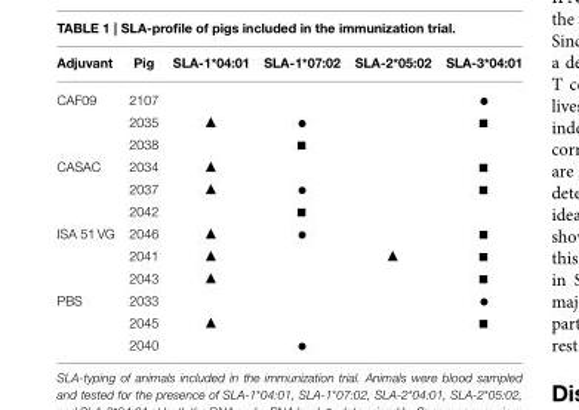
<table><thead><tr><td>Adjuvant</td><td>Pig</td><td>SLA-1*04:01</td><td>SLA-1*07:02</td><td>SLA-2*05:02</td><td>SLA-3*04:01</td></tr></thead><tbody><tr><td rowspan="3">CAF09</td><td>2107</td><td></td><td></td><td></td><td></td></tr><tr><td>2035</td><td></td><td></td><td></td><td></td></tr><tr><td>2038</td><td></td><td></td><td></td><td></td></tr><tr><td rowspan="3">CASAC</td><td>2034</td><td></td><td></td><td></td><td></td></tr><tr><td>2037</td><td></td><td></td><td></td><td></td></tr><tr><td>2042</td><td></td><td></td><td></td><td></td></tr><tr><td rowspan="3">ISA 51 VG</td><td>2046</td><td></td><td></td><td></td><td></td></tr><tr><td>2041</td><td></td><td></td><td></td><td></td></tr><tr><td>2043</td><td></td><td></td><td></td><td></td></tr><tr><td rowspan="3">PBS</td><td>2033</td><td></td><td></td><td></td><td></td></tr><tr><td>2045</td><td></td><td></td><td></td><td></td></tr><tr><td>2040</td><td></td><td></td><td></td><td></td></tr></tbody></table>